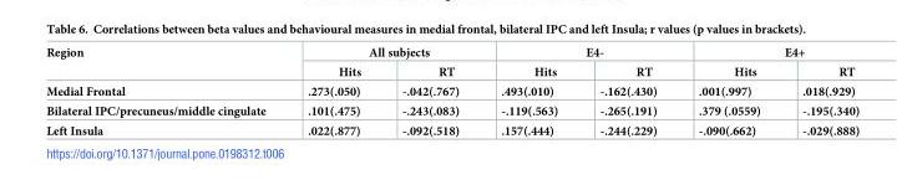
<table><thead><tr><td rowspan="2">Region</td><td colspan="2">All subjects</td><td colspan="2">E4-</td><td colspan="2">E4+</td></tr><tr><td>Hits</td><td>RT</td><td>Hits</td><td>RT</td><td>Hits</td><td>RT</td></tr></thead><tbody><tr><td>Medial Frontal</td><td>.273(.050)</td><td>-.042(.767)</td><td>.493(.010)</td><td>-.162(.430)</td><td>.001(.997)</td><td>.018(.929)</td></tr><tr><td>Bilateral IPC/precuneus/middle cingulate</td><td>.101(.475)</td><td>-.243(.083)</td><td>-.119(.563)</td><td>-.265(.191)</td><td>.379 (.0559)</td><td>-.195(.340)</td></tr><tr><td>Left Insula</td><td>.022(.877)</td><td>-.092(.518)</td><td>.157(.444)</td><td>-.244(.229)</td><td>-.090(.662)</td><td>-.029(.888)</td></tr></tbody></table>